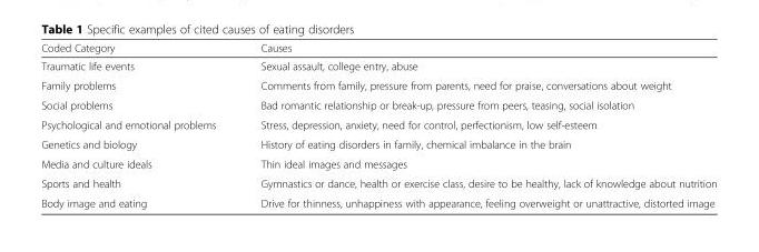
<table><thead><tr><td>Coded Category</td><td>Causes</td></tr></thead><tbody><tr><td>Traumatic life events</td><td>Sexual assault, college entry, abuse</td></tr><tr><td>Family problems</td><td>Comments from family, pressure from parents, need for praise, conversations about weight</td></tr><tr><td>Social problems</td><td>Bad romantic relationship or break-up, pressure from peers, teasing, social isolation</td></tr><tr><td>Psychological and emotional problems</td><td>Stress, depression, anxiety, need for control, perfectionism, low self-esteem</td></tr><tr><td>Genetics and biology</td><td>History of eating disorders in family, chemical imbalance in the brain</td></tr><tr><td>Media and culture ideals</td><td>Thin ideal images and messages</td></tr><tr><td>Sports and health</td><td>Gymnastics or dance, health or exercise class, desire to be healthy, lack of knowledge about nutrition</td></tr><tr><td>Body image and eating</td><td>Drive for thinness, unhappiness with appearance, feeling overweight or unattractive, distorted image</td></tr></tbody></table>